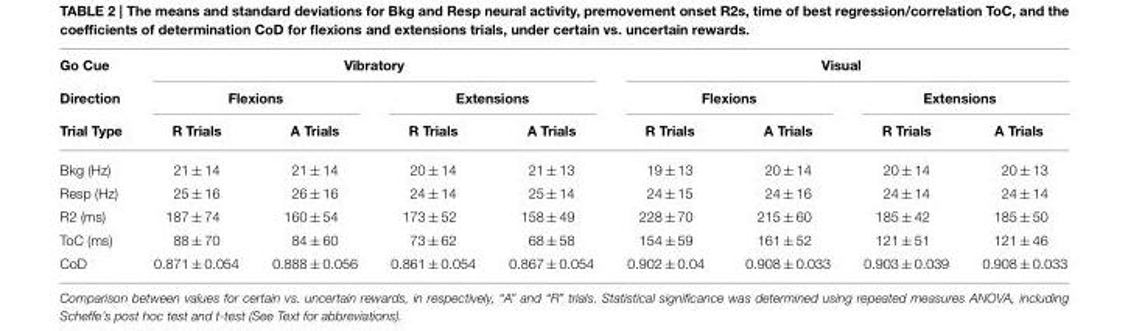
<table><thead><tr><td rowspan="3">Go Cue Direction Trial Type</td><td colspan="4">Vibratory</td><td colspan="4">Visual</td></tr><tr><td colspan="2">Flexions</td><td colspan="2">Extensions</td><td colspan="2">Flexions</td><td colspan="2">Extensions</td></tr><tr><td>R Trials</td><td>A Trials</td><td>R Trials</td><td>A Trials</td><td>R Trials</td><td>A Trials</td><td>R Trials</td><td>A Trials</td></tr></thead><tbody><tr><td>Bkg (Hz)</td><td>21 ± 14</td><td>21 ± 14</td><td>20 ± 14</td><td>21 ± 13</td><td>19 ± 13</td><td>20 ± 14</td><td>20 ± 14</td><td>20 ± 13</td></tr><tr><td>Resp (Hz)</td><td>25 ± 16</td><td>26 ± 16</td><td>24 ± 14</td><td>25 ± 14</td><td>24 ± 15</td><td>24 ± 16</td><td>24 ± 14</td><td>24 ± 14</td></tr><tr><td>R2 (ms)</td><td>187 ± 74</td><td>160 ± 54</td><td>173 ± 52</td><td>158 ± 49</td><td>228 ± 70</td><td>215 ± 60</td><td>185 ± 42</td><td>185 ± 50</td></tr><tr><td>ToC (ms)</td><td>88 ± 70</td><td>84 ± 60</td><td>73 ± 62</td><td>68 ± 58</td><td>154 ± 59</td><td>161 ± 52</td><td>121 ± 51</td><td>121 ± 46</td></tr><tr><td>CoD</td><td>0.871 ± 0.054</td><td>0.888 ± 0.056</td><td>0.861 ± 0.054</td><td>0.867 ± 0.054</td><td>0.902 ± 0.04</td><td>0.908 ± 0.033</td><td>0.903 ± 0.039</td><td>0.908 ± 0.033</td></tr></tbody></table>